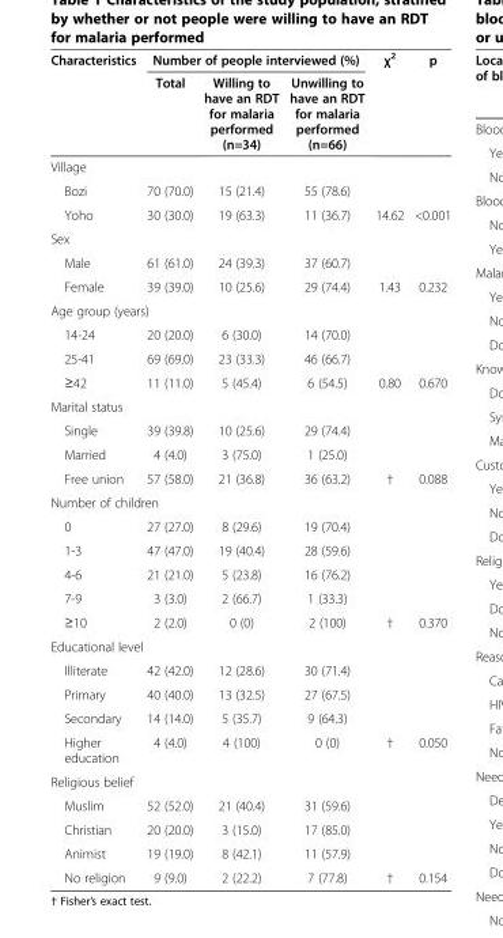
<table><thead><tr><td rowspan="2">Characteristics</td><td colspan="3">Number of people interviewed (%)</td><td rowspan="2">χ<sup>2</sup></td><td rowspan="2">p</td></tr><tr><td>Total</td><td>Willing to have an RDT for malaria performed (n=34)</td><td>Unwilling to have an RDT for malaria performed (n=66)</td></tr></thead><tbody><tr><td colspan="6">Village</td></tr><tr><td>Bozi</td><td>70 (70.0)</td><td>15 (21.4)</td><td>55 (78.6)</td><td></td><td></td></tr><tr><td>Yoho</td><td>30 (30.0)</td><td>19 (63.3)</td><td>11 (36.7)</td><td>14.62</td><td>&lt;0.001</td></tr><tr><td colspan="6">Sex</td></tr><tr><td>Male</td><td>61 (61.0)</td><td>24 (39.3)</td><td>37 (60.7)</td><td></td><td></td></tr><tr><td>Female</td><td>39 (39.0)</td><td>10 (25.6)</td><td>29 (74.4)</td><td>1.43</td><td>0.232</td></tr><tr><td colspan="6">Age group (years)</td></tr><tr><td>14-24</td><td>20 (20.0)</td><td>6 (30.0)</td><td>14 (70.0)</td><td></td><td></td></tr><tr><td>25-41</td><td>69 (69.0)</td><td>23 (33.3)</td><td>46 (66.7)</td><td></td><td></td></tr><tr><td>≥42</td><td>11 (11.0)</td><td>5 (45.4)</td><td>6 (54.5)</td><td>0.80</td><td>0.670</td></tr><tr><td colspan="6">Marital status</td></tr><tr><td>Single</td><td>39 (39.8)</td><td>10 (25.6)</td><td>29 (74.4)</td><td></td><td></td></tr><tr><td>Married</td><td>4 (4.0)</td><td>3 (75.0)</td><td>1 (25.0)</td><td></td><td></td></tr><tr><td>Free union</td><td>57 (58.0)</td><td>21 (36.8)</td><td>36 (63.2)</td><td>†</td><td>0.088</td></tr><tr><td colspan="6">Number of children</td></tr><tr><td>0</td><td>27 (27.0)</td><td>8 (29.6)</td><td>19 (70.4)</td><td></td><td></td></tr><tr><td>1-3</td><td>47 (47.0)</td><td>19 (40.4)</td><td>28 (59.6)</td><td></td><td></td></tr><tr><td>4-6</td><td>21 (21.0)</td><td>5 (23.8)</td><td>16 (76.2)</td><td></td><td></td></tr><tr><td>7-9</td><td>3 (3.0)</td><td>2 (66.7)</td><td>1 (33.3)</td><td></td><td></td></tr><tr><td>≥10</td><td>2 (2.0)</td><td>0 (0)</td><td>2 (100)</td><td>†</td><td>0.370</td></tr><tr><td colspan="6">Educational level</td></tr><tr><td>Illiterate</td><td>42 (42.0)</td><td>12 (28.6)</td><td>30 (71.4)</td><td></td><td></td></tr><tr><td>Primary</td><td>40 (40.0)</td><td>13 (32.5)</td><td>27 (67.5)</td><td></td><td></td></tr><tr><td>Secondary</td><td>14 (14.0)</td><td>5 (35.7)</td><td>9 (64.3)</td><td></td><td></td></tr><tr><td>Higher education</td><td>4 (4.0)</td><td>4 (100)</td><td>0 (0)</td><td>†</td><td>0.050</td></tr><tr><td colspan="6">Religious belief</td></tr><tr><td>Muslim</td><td>52 (52.0)</td><td>21 (40.4)</td><td>31 (59.6)</td><td></td><td></td></tr><tr><td>Christian</td><td>20 (20.0)</td><td>3 (15.0)</td><td>17 (85.0)</td><td></td><td></td></tr><tr><td>Animist</td><td>19 (19.0)</td><td>8 (42.1)</td><td>11 (57.9)</td><td></td><td></td></tr><tr><td>No religion</td><td>9 (9.0)</td><td>2 (22.2)</td><td>7 (77.8)</td><td>†</td><td>0.154</td></tr></tbody></table>